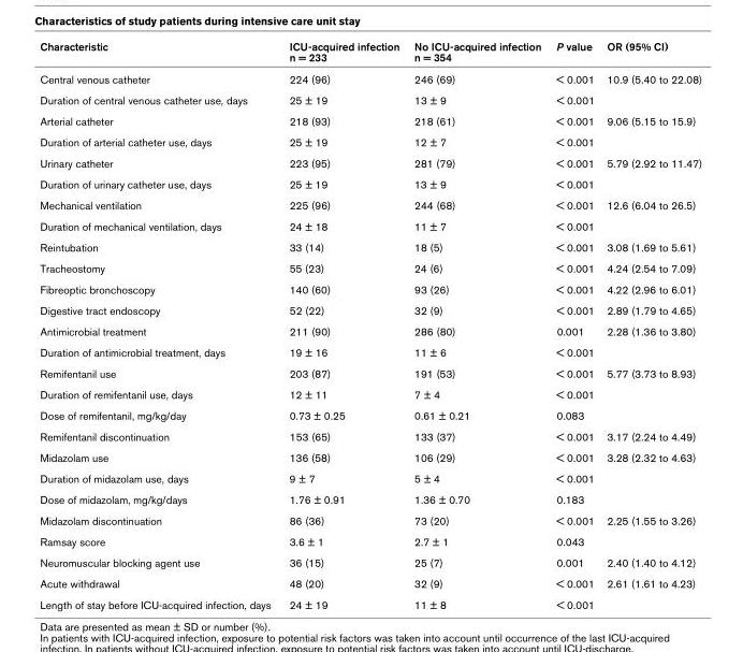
<table><thead><tr><td>Characteristic</td><td>ICU-acquired infection n = 233</td><td>No ICU-acquired infection n = 354</td><td>P value</td><td>OR (95% CI)</td></tr></thead><tbody><tr><td>Central venous catheter</td><td>224 (96)</td><td>246 (69)</td><td>&lt; 0.001</td><td>10.9 (5.40 to 22.08)</td></tr><tr><td>Duration of central venous catheter use, days</td><td>25 ± 19</td><td>13 ± 9</td><td>&lt; 0.001</td><td></td></tr><tr><td>Arterial catheter</td><td>218 (93)</td><td>218 (61)</td><td>&lt; 0.001</td><td>9.06 (5.15 to 15.9)</td></tr><tr><td>Duration of arterial catheter use, days</td><td>25 ± 19</td><td>12 ± 7</td><td>&lt; 0.001</td><td></td></tr><tr><td>Urinary catheter</td><td>223 (95)</td><td>281 (79)</td><td>&lt; 0.001</td><td>5.79 (2.92 to 11.47)</td></tr><tr><td>Duration of urinary catheter use, days</td><td>25 ± 19</td><td>13 ± 9</td><td>&lt; 0.001</td><td></td></tr><tr><td>Mechanical ventilation</td><td>225 (96)</td><td>244 (68)</td><td>&lt; 0.001</td><td>12.6 (6.04 to 26.5)</td></tr><tr><td>Duration of mechanical ventilation, days</td><td>24 ± 18</td><td>11 ± 7</td><td>&lt; 0.001</td><td></td></tr><tr><td>Reintubation</td><td>33 (14)</td><td>18 (5)</td><td>&lt; 0.001</td><td>3.08 (1.69 to 5.61)</td></tr><tr><td>Tracheostomy</td><td>55 (23)</td><td>24 (6)</td><td>&lt; 0.001</td><td>4.24 (2.54 to 7.09)</td></tr><tr><td>Fibreoptic bronchoscopy</td><td>140 (60)</td><td>93 (26)</td><td>&lt; 0.001</td><td>4.22 (2.96 to 6.01)</td></tr><tr><td>Digestive tract endoscopy</td><td>52 (22)</td><td>32 (9)</td><td>&lt; 0.001</td><td>2.89 (1.79 to 4.65)</td></tr><tr><td>Antimicrobial treatment</td><td>211 (90)</td><td>286 (80)</td><td>0.001</td><td>2.28 (1.36 to 3.80)</td></tr><tr><td>Duration of antimicrobial treatment, days</td><td>19 ± 16</td><td>11 ± 6</td><td>&lt; 0.001</td><td></td></tr><tr><td>Remifentanil use</td><td>203 (87)</td><td>191 (53)</td><td>&lt; 0.001</td><td>5.77 (3.73 to 8.93)</td></tr><tr><td>Duration of remifentanil use, days</td><td>12 ± 11</td><td>7 ± 4</td><td>&lt; 0.001</td><td></td></tr><tr><td>Dose of remifentanil, mg/kg/day</td><td>0.73 ± 0.25</td><td>0.61 ± 0.21</td><td>0.083</td><td></td></tr><tr><td>Remifentanil discontinuation</td><td>153 (65)</td><td>133 (37)</td><td>&lt; 0.001</td><td>3.17 (2.24 to 4.49)</td></tr><tr><td>Midazolam use</td><td>136 (58)</td><td>106 (29)</td><td>&lt; 0.001</td><td>3.28 (2.32 to 4.63)</td></tr><tr><td>Duration of midazolam use, days</td><td>9 ± 7</td><td>5 ± 4</td><td>&lt; 0.001</td><td></td></tr><tr><td>Dose of midazolam, mg/kg/days</td><td>1.76 ± 0.91</td><td>1.36 ± 0.70</td><td>0.183</td><td></td></tr><tr><td>Midazolam discontinuation</td><td>86 (36)</td><td>73 (20)</td><td>&lt; 0.001</td><td>2.25 (1.55 to 3.26)</td></tr><tr><td>Ramsay score</td><td>3.6 ± 1</td><td>2.7 ± 1</td><td>0.043</td><td></td></tr><tr><td>Neuromuscular blocking agent use</td><td>36 (15)</td><td>25 (7)</td><td>0.001</td><td>2.40 (1.40 to 4.12)</td></tr><tr><td>Acute withdrawal</td><td>48 (20)</td><td>32 (9)</td><td>&lt; 0.001</td><td>2.61 (1.61 to 4.23)</td></tr><tr><td>Length of stay before ICU-acquired infection, days</td><td>24 ± 19</td><td>11 ± 8</td><td>&lt; 0.001</td><td></td></tr></tbody></table>